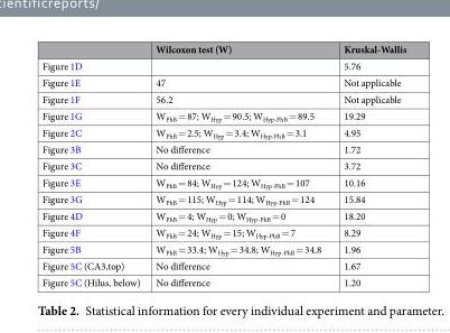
<table><thead><tr><td></td><td>Wilcoxon test (W)</td><td>Kruskal-Wallis</td></tr></thead><tbody><tr><td>Figure 1D</td><td></td><td>5.76</td></tr><tr><td>Figure 1E</td><td>47</td><td>Not applicable</td></tr><tr><td>Figure 1F</td><td>56.2</td><td>Not applicable</td></tr><tr><td>Figure 1G</td><td>W<sub>PhB</sub> = 87; W<sub>Hyp</sub> = 90.5; W<sub>Hyp-PhB</sub> = 89.5</td><td>19.29</td></tr><tr><td>Figure 2C</td><td>W<sub>PhB</sub> = 2.5; W<sub>Hyp</sub> = 3.4; W<sub>Hyp-PhB</sub> = 3.1</td><td>4.95</td></tr><tr><td>Figure 3B</td><td>No difference</td><td>1.72</td></tr><tr><td>Figure 3C</td><td>No difference</td><td>3.72</td></tr><tr><td>Figure 3E</td><td>W<sub>PhB</sub> = 84; W<sub>Hyp</sub> = 124; W<sub>Hyp-PhB</sub> = 107</td><td>10.16</td></tr><tr><td>Figure 3G</td><td>W<sub>PhB</sub> = 115; W<sub>Hyp</sub> = 114; W<sub>Hyp-PhB</sub> = 124</td><td>15.84</td></tr><tr><td>Figure 4D</td><td>W<sub>PhB</sub> = 4; W<sub>Hyp</sub> = 0; W<sub>Hyp-PhB</sub> = 0</td><td>18.20</td></tr><tr><td>Figure 4F</td><td>W<sub>PhB</sub> = 24; W<sub>Hyp</sub> = 15; W<sub>Hyp-PhB</sub> = 7</td><td>8.29</td></tr><tr><td>Figure 5B</td><td>W<sub>PhB</sub> = 33.4; W<sub>Hyp</sub> = 34.8; W<sub>Hyp-PhB</sub> = 34.8</td><td>1.96</td></tr><tr><td>Figure 5C (CA3,top)</td><td>No difference</td><td>1.67</td></tr><tr><td>Figure 5C (Hilus, below)</td><td>No difference</td><td>1.20</td></tr></tbody></table>